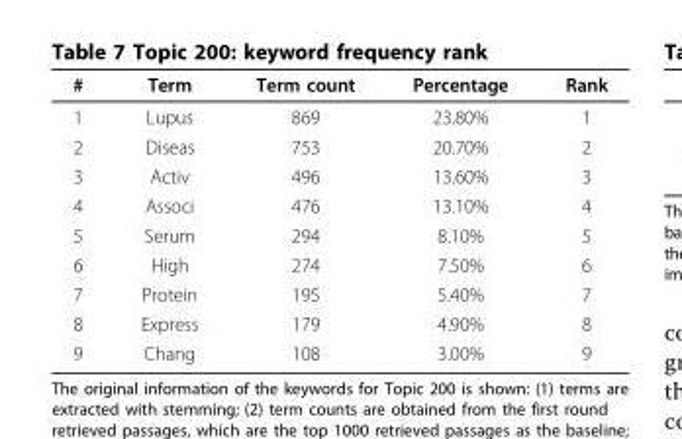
<table><thead><tr><td>#</td><td>Term</td><td>Term count</td><td>Percentage</td><td>Rank</td></tr></thead><tbody><tr><td>1</td><td>Lupus</td><td>869</td><td>23.80%</td><td>1</td></tr><tr><td>2</td><td>Diseas</td><td>753</td><td>20.70%</td><td>2</td></tr><tr><td>3</td><td>Activ</td><td>496</td><td>13.60%</td><td>3</td></tr><tr><td>4</td><td>Associ</td><td>476</td><td>13.10%</td><td>4</td></tr><tr><td>5</td><td>Serum</td><td>294</td><td>8.10%</td><td>5</td></tr><tr><td>6</td><td>High</td><td>274</td><td>7.50%</td><td>6</td></tr><tr><td>7</td><td>Protein</td><td>195</td><td>5.40%</td><td>7</td></tr><tr><td>8</td><td>Express</td><td>179</td><td>4.90%</td><td>8</td></tr><tr><td>9</td><td>Chang</td><td>108</td><td>3.00%</td><td>9</td></tr></tbody></table>